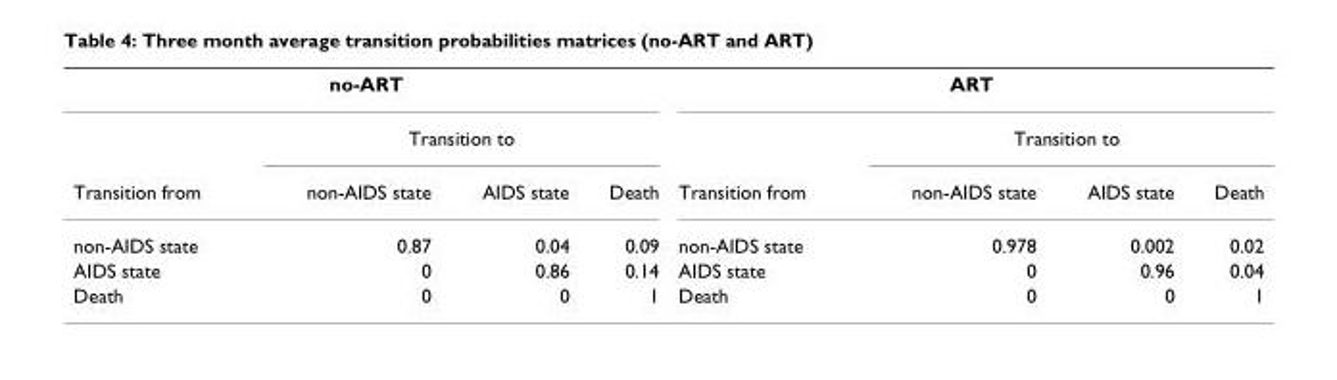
<table><tbody><tr><td colspan="4">no-ART</td><td colspan="4">ART</td></tr><tr><td></td><td colspan="3">Transition to</td><td></td><td colspan="3">Transition to</td></tr><tr><td>Transition from</td><td>non-AIDS state</td><td>AIDS state</td><td>Death</td><td>Transition from</td><td>non-AIDS state</td><td>AIDS state</td><td>Death</td></tr><tr><td>non-AIDS state</td><td>0.87</td><td>0.04</td><td>0.09</td><td>non-AIDS state</td><td>0.978</td><td>0.002</td><td>0.02</td></tr><tr><td>AIDS state</td><td>0</td><td>0.86</td><td>0.14</td><td>AIDS state</td><td>0</td><td>0.96</td><td>0.04</td></tr><tr><td>Death</td><td>0</td><td>0</td><td>1</td><td>Death</td><td>0</td><td>0</td><td>1</td></tr></tbody></table>